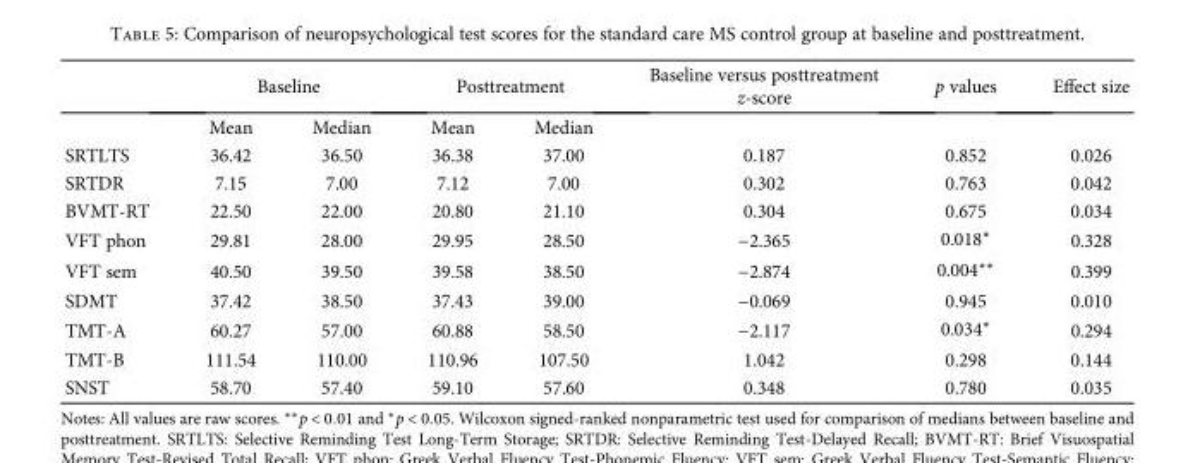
<table><thead><tr><td rowspan="2"></td><td colspan="2">Baseline</td><td colspan="2">Posttreatment</td><td rowspan="2">Baseline versus posttreatment z-score</td><td rowspan="2">p values</td><td rowspan="2">Effect size</td></tr><tr><td>Mean</td><td>Median</td><td>Mean</td><td>Median</td></tr></thead><tbody><tr><td>SRTLTS</td><td>36.42</td><td>36.50</td><td>36.38</td><td>37.00</td><td>0.187</td><td>0.852</td><td>0.026</td></tr><tr><td>SRTDR</td><td>7.15</td><td>7.00</td><td>7.12</td><td>7.00</td><td>0.302</td><td>0.763</td><td>0.042</td></tr><tr><td>BVMT-RT</td><td>22.50</td><td>22.00</td><td>20.80</td><td>21.10</td><td>0.304</td><td>0.675</td><td>0.034</td></tr><tr><td>VFT phon</td><td>29.81</td><td>28.00</td><td>29.95</td><td>28.50</td><td>−2.365</td><td>0.018∗</td><td>0.328</td></tr><tr><td>VFT sem</td><td>40.50</td><td>39.50</td><td>39.58</td><td>38.50</td><td>−2.874</td><td>0.004∗∗</td><td>0.399</td></tr><tr><td>SDMT</td><td>37.42</td><td>38.50</td><td>37.43</td><td>39.00</td><td>−0.069</td><td>0.945</td><td>0.010</td></tr><tr><td>TMT-A</td><td>60.27</td><td>57.00</td><td>60.88</td><td>58.50</td><td>−2.117</td><td>0.034∗</td><td>0.294</td></tr><tr><td>TMT-B</td><td>111.54</td><td>110.00</td><td>110.96</td><td>107.50</td><td>1.042</td><td>0.298</td><td>0.144</td></tr><tr><td>SNST</td><td>58.70</td><td>57.40</td><td>59.10</td><td>57.60</td><td>0.348</td><td>0.780</td><td>0.035</td></tr></tbody></table>